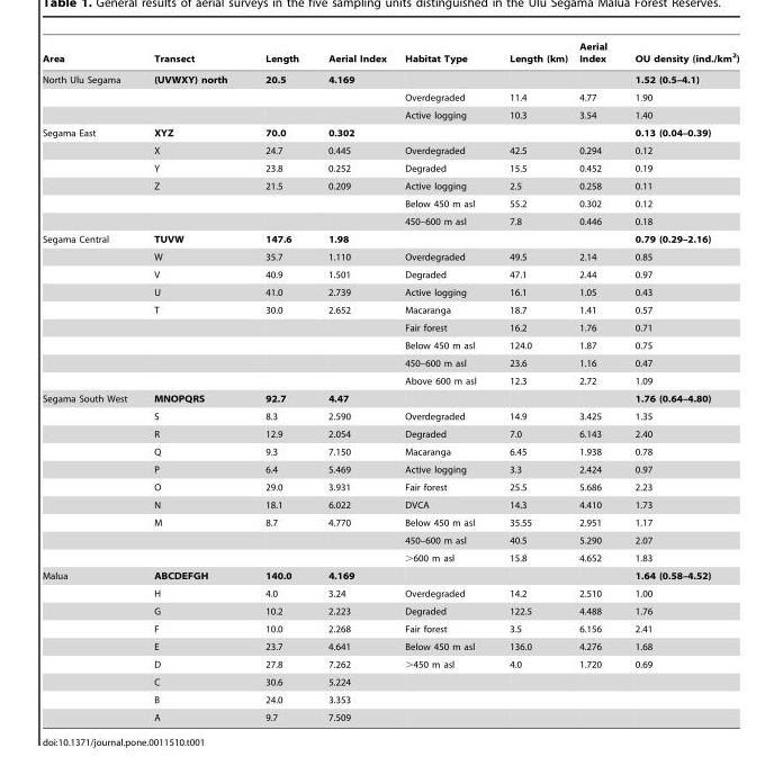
<table><thead><tr><td>Area</td><td>Transect</td><td>Length</td><td>Aerial Index</td><td>Habitat Type</td><td>Length (km)</td><td>Aerial Index</td><td>OU density (ind./km<sup>2</sup>)</td></tr></thead><tbody><tr><td rowspan="3">North Ulu Segama</td><td>(UVWXY) north</td><td>20.5</td><td>4.169</td><td></td><td></td><td></td><td>1.52 (0.5–4.1)</td></tr><tr><td></td><td></td><td></td><td>Overdegraded</td><td>11.4</td><td>4.77</td><td>1.90</td></tr><tr><td></td><td></td><td></td><td>Active logging</td><td>10.3</td><td>3.54</td><td>1.40</td></tr><tr><td rowspan="6">Segama East</td><td>XYZ</td><td>70.0</td><td>0.302</td><td></td><td></td><td></td><td>0.13 (0.04–0.39)</td></tr><tr><td>X</td><td>24.7</td><td>0.445</td><td>Overdegraded</td><td>42.5</td><td>0.294</td><td>0.12</td></tr><tr><td>Y</td><td>23.8</td><td>0.252</td><td>Degraded</td><td>15.5</td><td>0.452</td><td>0.19</td></tr><tr><td>Z</td><td>21.5</td><td>0.209</td><td>Active logging</td><td>2.5</td><td>0.258</td><td>0.11</td></tr><tr><td></td><td></td><td></td><td>Below 450 m asl</td><td>55.2</td><td>0.302</td><td>0.12</td></tr><tr><td></td><td></td><td></td><td>450–600 m asl</td><td>7.8</td><td>0.446</td><td>0.18</td></tr><tr><td rowspan="9">Segama Central</td><td>TUVW</td><td>147.6</td><td>1.98</td><td></td><td></td><td></td><td>0.79 (0.29–2.16)</td></tr><tr><td>W</td><td>35.7</td><td>1.110</td><td>Overdegraded</td><td>49.5</td><td>2.14</td><td>0.85</td></tr><tr><td>V</td><td>40.9</td><td>1.501</td><td>Degraded</td><td>47.1</td><td>2.44</td><td>0.97</td></tr><tr><td>U</td><td>41.0</td><td>2.739</td><td>Active logging</td><td>16.1</td><td>1.05</td><td>0.43</td></tr><tr><td>T</td><td>30.0</td><td>2.652</td><td>Macaranga</td><td>18.7</td><td>1.41</td><td>0.57</td></tr><tr><td></td><td></td><td></td><td>Fair forest</td><td>16.2</td><td>1.76</td><td>0.71</td></tr><tr><td></td><td></td><td></td><td>Below 450 m asl</td><td>124.0</td><td>1.87</td><td>0.75</td></tr><tr><td></td><td></td><td></td><td>450–600 m asl</td><td>23.6</td><td>1.16</td><td>0.47</td></tr><tr><td></td><td></td><td></td><td>Above 600 m asl</td><td>12.3</td><td>2.72</td><td>1.09</td></tr><tr><td rowspan="10">Segama South West</td><td>MNOPQRS</td><td>92.7</td><td>4.47</td><td></td><td></td><td></td><td>1.76 (0.64–4.80)</td></tr><tr><td>S</td><td>8.3</td><td>2.590</td><td>Overdegraded</td><td>14.9</td><td>3.425</td><td>1.35</td></tr><tr><td>R</td><td>12.9</td><td>2.054</td><td>Degraded</td><td>7.0</td><td>6.143</td><td>2.40</td></tr><tr><td>Q</td><td>9.3</td><td>7.150</td><td>Macaranga</td><td>6.45</td><td>1.938</td><td>0.78</td></tr><tr><td>P</td><td>6.4</td><td>5.469</td><td>Active logging</td><td>3.3</td><td>2.424</td><td>0.97</td></tr><tr><td>O</td><td>29.0</td><td>3.931</td><td>Fair forest</td><td>25.5</td><td>5.686</td><td>2.23</td></tr><tr><td>N</td><td>18.1</td><td>6.022</td><td>DVCA</td><td>14.3</td><td>4.410</td><td>1.73</td></tr><tr><td>M</td><td>8.7</td><td>4.770</td><td>Below 450 m asl</td><td>35.55</td><td>2.951</td><td>1.17</td></tr><tr><td></td><td></td><td></td><td>450–600 m asl</td><td>40.5</td><td>5.290</td><td>2.07</td></tr><tr><td></td><td></td><td></td><td>&gt;600 m asl</td><td>15.8</td><td>4.652</td><td>1.83</td></tr><tr><td rowspan="9">Malua</td><td>ABCDEFGH</td><td>140.0</td><td>4.169</td><td></td><td></td><td></td><td>1.64 (0.58–4.52)</td></tr><tr><td>H</td><td>4.0</td><td>3.24</td><td>Overdegraded</td><td>14.2</td><td>2.510</td><td>1.00</td></tr><tr><td>G</td><td>10.2</td><td>2.223</td><td>Degraded</td><td>122.5</td><td>4.488</td><td>1.76</td></tr><tr><td>F</td><td>10.0</td><td>2.268</td><td>Fair forest</td><td>3.5</td><td>6.156</td><td>2.41</td></tr><tr><td>E</td><td>23.7</td><td>4.641</td><td>Below 450 m asl</td><td>136.0</td><td>4.276</td><td>1.68</td></tr><tr><td>D</td><td>27.8</td><td>7.262</td><td>&gt;450 m asl</td><td>4.0</td><td>1.720</td><td>0.69</td></tr><tr><td>C</td><td>30.6</td><td>5.224</td><td></td><td></td><td></td><td></td></tr><tr><td>B</td><td>24.0</td><td>3.353</td><td></td><td></td><td></td><td></td></tr><tr><td>A</td><td>9.7</td><td>7.509</td><td></td><td></td><td></td><td></td></tr></tbody></table>